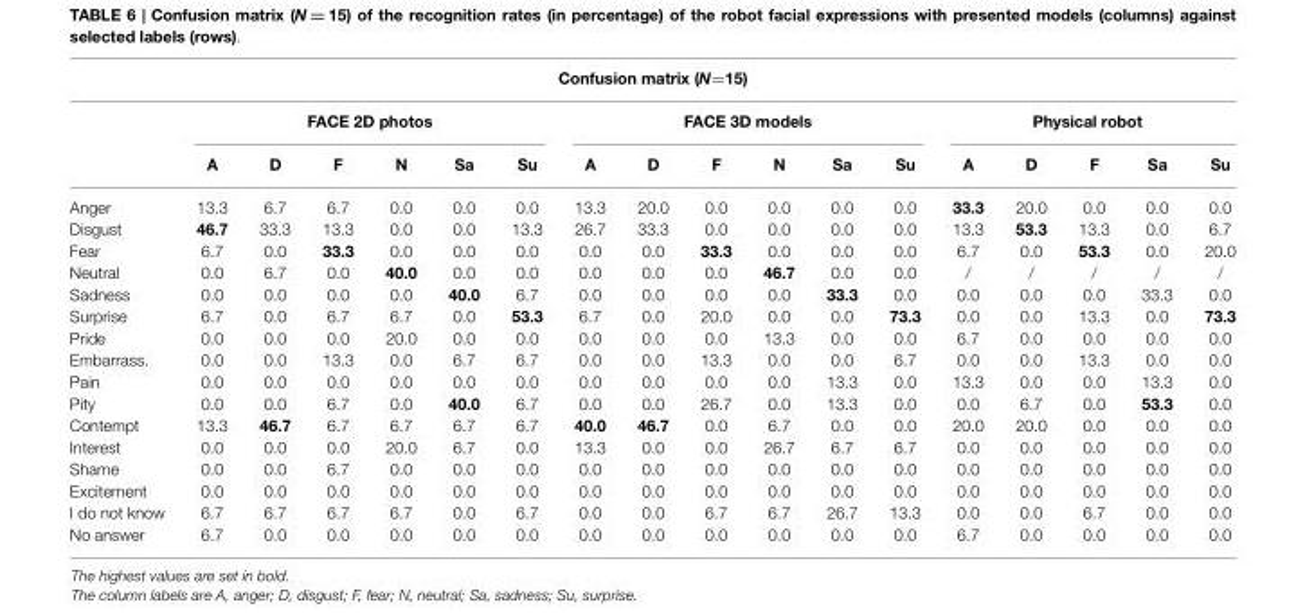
<table><thead><tr><td colspan="18">Confusion matrix (N=15)</td></tr><tr><td rowspan="2"></td><td colspan="6">FACE 2D photos</td><td colspan="6">FACE 3D models</td><td colspan="5">Physical robot</td></tr><tr><td>A</td><td>D</td><td>F</td><td>N</td><td>Sa</td><td>Su</td><td>A</td><td>D</td><td>F</td><td>N</td><td>Sa</td><td>Su</td><td>A</td><td>D</td><td>F</td><td>Sa</td><td>Su</td></tr></thead><tbody><tr><td>Anger</td><td>13.3</td><td>6.7</td><td>6.7</td><td>0.0</td><td>0.0</td><td>0.0</td><td>13.3</td><td>20.0</td><td>0.0</td><td>0.0</td><td>0.0</td><td>0.0</td><td>33.3</td><td>20.0</td><td>0.0</td><td>0.0</td><td>0.0</td></tr><tr><td>Disgust</td><td>46.7</td><td>33.3</td><td>13.3</td><td>0.0</td><td>0.0</td><td>13.3</td><td>26.7</td><td>33.3</td><td>0.0</td><td>0.0</td><td>0.0</td><td>0.0</td><td>13.3</td><td>53.3</td><td>13.3</td><td>0.0</td><td>6.7</td></tr><tr><td>Fear</td><td>6.7</td><td>0.0</td><td>33.3</td><td>0.0</td><td>0.0</td><td>0.0</td><td>0.0</td><td>0.0</td><td>33.3</td><td>0.0</td><td>0.0</td><td>0.0</td><td>6.7</td><td>0.0</td><td>53.3</td><td>0.0</td><td>20.0</td></tr><tr><td>Neutral</td><td>0.0</td><td>6.7</td><td>0.0</td><td>40.0</td><td>0.0</td><td>0.0</td><td>0.0</td><td>0.0</td><td>0.0</td><td>46.7</td><td>0.0</td><td>0.0</td><td>/</td><td>/</td><td>/</td><td>/</td><td>/</td></tr><tr><td>Sadness</td><td>0.0</td><td>0.0</td><td>0.0</td><td>0.0</td><td>40.0</td><td>6.7</td><td>0.0</td><td>0.0</td><td>0.0</td><td>0.0</td><td>33.3</td><td>0.0</td><td>0.0</td><td>0.0</td><td>0.0</td><td>33.3</td><td>0.0</td></tr><tr><td>Surprise</td><td>6.7</td><td>0.0</td><td>6.7</td><td>6.7</td><td>0.0</td><td>53.3</td><td>6.7</td><td>0.0</td><td>20.0</td><td>0.0</td><td>0.0</td><td>73.3</td><td>0.0</td><td>0.0</td><td>13.3</td><td>0.0</td><td>73.3</td></tr><tr><td>Pride</td><td>0.0</td><td>0.0</td><td>0.0</td><td>20.0</td><td>0.0</td><td>0.0</td><td>0.0</td><td>0.0</td><td>0.0</td><td>13.3</td><td>0.0</td><td>0.0</td><td>6.7</td><td>0.0</td><td>0.0</td><td>0.0</td><td>0.0</td></tr><tr><td>Embarrass.</td><td>0.0</td><td>0.0</td><td>13.3</td><td>0.0</td><td>6.7</td><td>6.7</td><td>0.0</td><td>0.0</td><td>13.3</td><td>0.0</td><td>0.0</td><td>6.7</td><td>0.0</td><td>0.0</td><td>13.3</td><td>0.0</td><td>0.0</td></tr><tr><td>Pain</td><td>0.0</td><td>0.0</td><td>0.0</td><td>0.0</td><td>0.0</td><td>0.0</td><td>0.0</td><td>0.0</td><td>0.0</td><td>0.0</td><td>13.3</td><td>0.0</td><td>13.3</td><td>0.0</td><td>0.0</td><td>13.3</td><td>0.0</td></tr><tr><td>Pity</td><td>0.0</td><td>0.0</td><td>6.7</td><td>0.0</td><td>40.0</td><td>6.7</td><td>0.0</td><td>0.0</td><td>26.7</td><td>0.0</td><td>13.3</td><td>0.0</td><td>0.0</td><td>6.7</td><td>0.0</td><td>53.3</td><td>0.0</td></tr><tr><td>Contempt</td><td>13.3</td><td>46.7</td><td>6.7</td><td>6.7</td><td>6.7</td><td>6.7</td><td>40.0</td><td>46.7</td><td>0.0</td><td>6.7</td><td>0.0</td><td>0.0</td><td>20.0</td><td>20.0</td><td>0.0</td><td>0.0</td><td>0.0</td></tr><tr><td>Interest</td><td>0.0</td><td>0.0</td><td>0.0</td><td>20.0</td><td>6.7</td><td>0.0</td><td>13.3</td><td>0.0</td><td>0.0</td><td>26.7</td><td>6.7</td><td>6.7</td><td>0.0</td><td>0.0</td><td>0.0</td><td>0.0</td><td>0.0</td></tr><tr><td>Shame</td><td>0.0</td><td>0.0</td><td>6.7</td><td>0.0</td><td>0.0</td><td>0.0</td><td>0.0</td><td>0.0</td><td>0.0</td><td>0.0</td><td>0.0</td><td>0.0</td><td>0.0</td><td>0.0</td><td>0.0</td><td>0.0</td><td>0.0</td></tr><tr><td>Excitement</td><td>0.0</td><td>0.0</td><td>0.0</td><td>0.0</td><td>0.0</td><td>0.0</td><td>0.0</td><td>0.0</td><td>0.0</td><td>0.0</td><td>0.0</td><td>0.0</td><td>0.0</td><td>0.0</td><td>0.0</td><td>0.0</td><td>0.0</td></tr><tr><td>I do not know</td><td>6.7</td><td>6.7</td><td>6.7</td><td>6.7</td><td>0.0</td><td>6.7</td><td>0.0</td><td>0.0</td><td>6.7</td><td>6.7</td><td>26.7</td><td>13.3</td><td>0.0</td><td>0.0</td><td>6.7</td><td>0.0</td><td>0.0</td></tr><tr><td>No answer</td><td>6.7</td><td>0.0</td><td>0.0</td><td>0.0</td><td>0.0</td><td>0.0</td><td>0.0</td><td>0.0</td><td>0.0</td><td>0.0</td><td>0.0</td><td>0.0</td><td>6.7</td><td>0.0</td><td>0.0</td><td>0.0</td><td>0.0</td></tr></tbody></table>